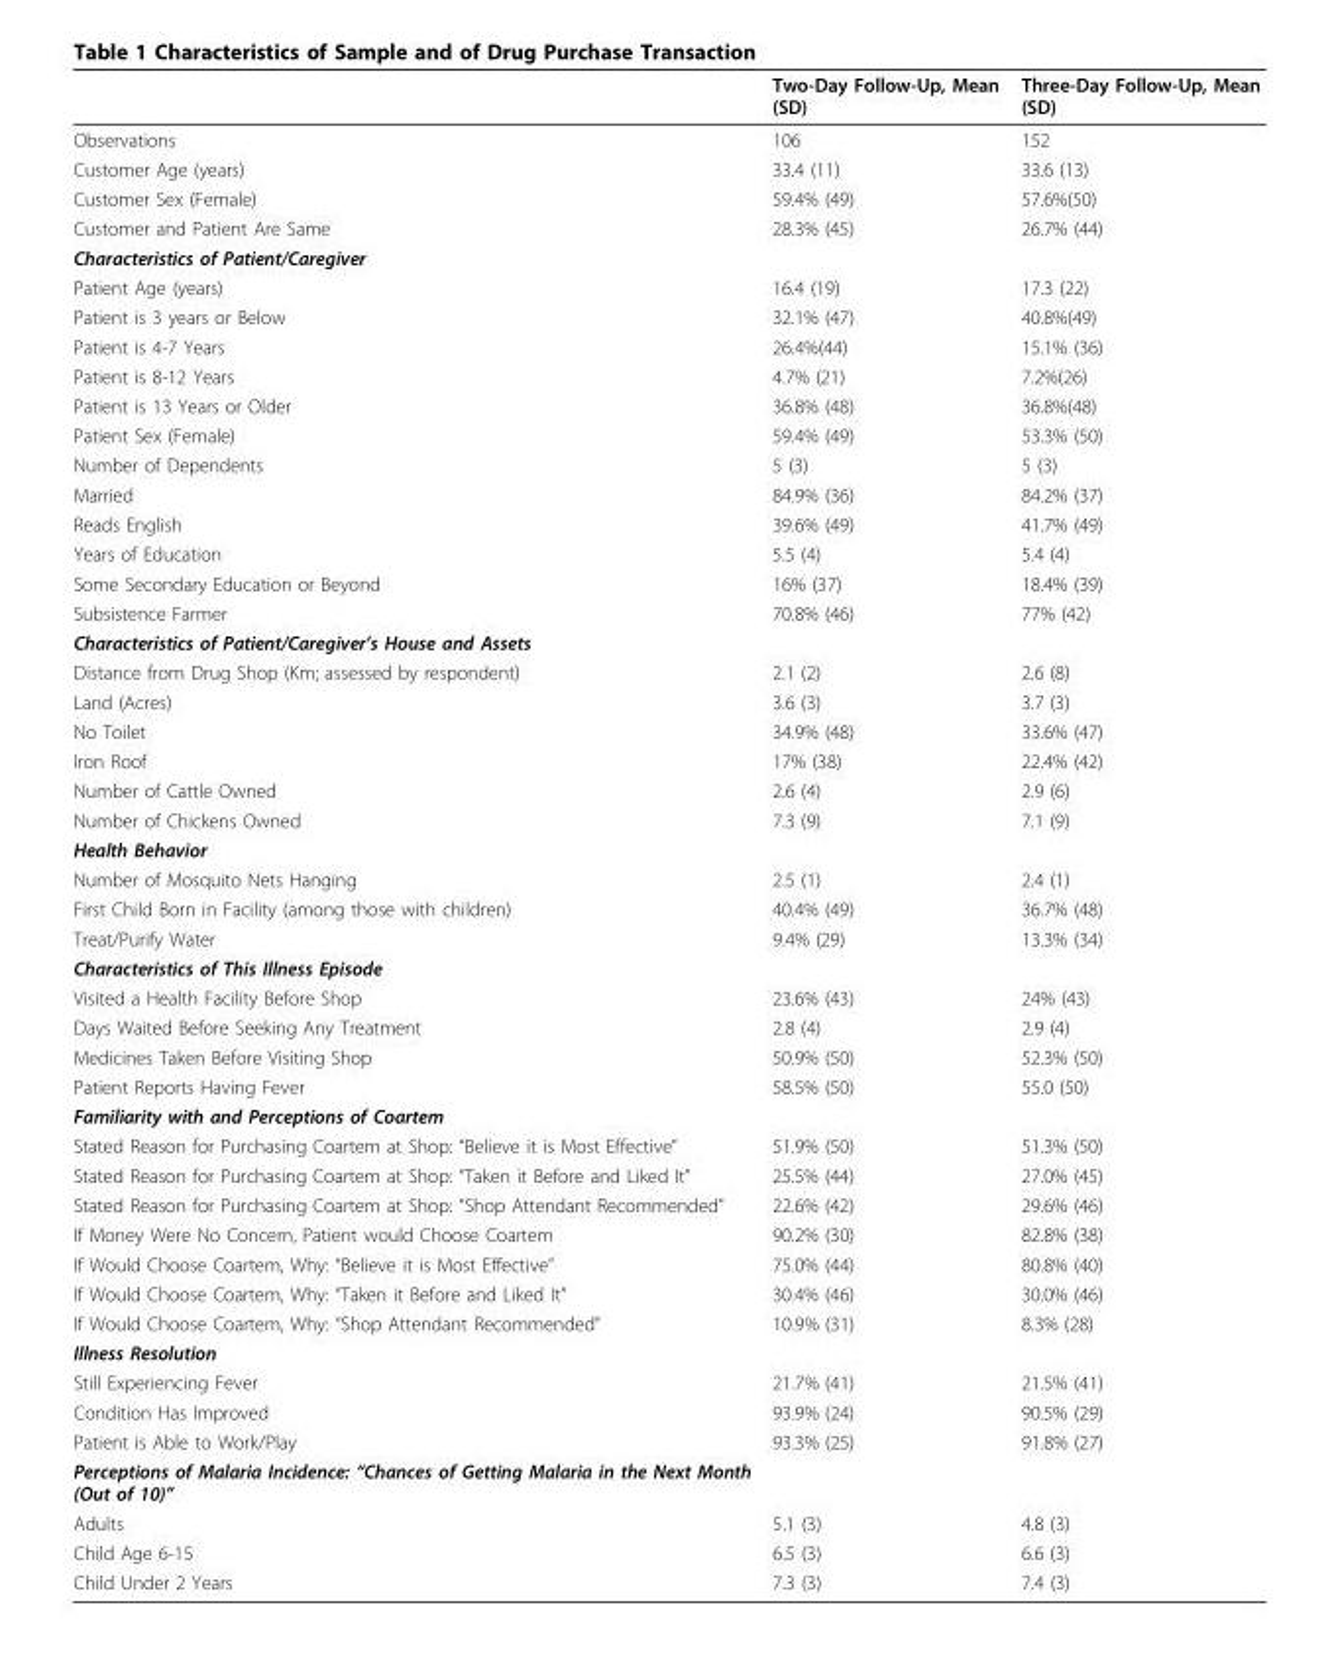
<table><thead><tr><td></td><td>Two-Day Follow-Up, Mean (SD)</td><td>Three-Day Follow-Up, Mean (SD)</td></tr></thead><tbody><tr><td>Observations</td><td>106</td><td>152</td></tr><tr><td>Customer Age (years)</td><td>33.4 (11)</td><td>33.6 (13)</td></tr><tr><td>Customer Sex (Female)</td><td>59.4% (49)</td><td>57.6%(50)</td></tr><tr><td>Customer and Patient Are Same</td><td>28.3% (45)</td><td>26.7% (44)</td></tr><tr><td colspan="3">Characteristics of Patient/Caregiver</td></tr><tr><td>Patient Age (years)</td><td>16.4 (19)</td><td>17.3 (22)</td></tr><tr><td>Patient is 3 years or Below</td><td>32.1% (47)</td><td>40.8%(49)</td></tr><tr><td>Patient is 4-7 Years</td><td>26.4%(44)</td><td>15.1% (36)</td></tr><tr><td>Patient is 8-12 Years</td><td>4.7% (21)</td><td>7.2%(26)</td></tr><tr><td>Patient is 13 Years or Older</td><td>36.8% (48)</td><td>36.8%(48)</td></tr><tr><td>Patient Sex (Female)</td><td>59.4% (49)</td><td>53.3% (50)</td></tr><tr><td>Number of Dependents</td><td>5 (3)</td><td>5 (3)</td></tr><tr><td>Married</td><td>84.9% (36)</td><td>84.2% (37)</td></tr><tr><td>Reads English</td><td>39.6% (49)</td><td>41.7% (49)</td></tr><tr><td>Years of Education</td><td>5.5 (4)</td><td>5.4 (4)</td></tr><tr><td>Some Secondary Education or Beyond</td><td>16% (37)</td><td>18.4% (39)</td></tr><tr><td>Subsistence Farmer</td><td>70.8% (46)</td><td>77% (42)</td></tr><tr><td colspan="3">Characteristics of Patient/Caregiver’s House and Assets</td></tr><tr><td>Distance from Drug Shop (Km; assessed by respondent)</td><td>2.1 (2)</td><td>2.6 (8)</td></tr><tr><td>Land (Acres)</td><td>3.6 (3)</td><td>3.7 (3)</td></tr><tr><td>No Toilet</td><td>34.9% (48)</td><td>33.6% (47)</td></tr><tr><td>Iron Roof</td><td>17% (38)</td><td>22.4% (42)</td></tr><tr><td>Number of Cattle Owned</td><td>2.6 (4)</td><td>2.9 (6)</td></tr><tr><td>Number of Chickens Owned</td><td>7.3 (9)</td><td>7.1 (9)</td></tr><tr><td colspan="3">Health Behavior</td></tr><tr><td>Number of Mosquito Nets Hanging</td><td>2.5 (1)</td><td>2.4 (1)</td></tr><tr><td>First Child Born in Facility (among those with children)</td><td>40.4% (49)</td><td>36.7% (48)</td></tr><tr><td>Treat/Purify Water</td><td>9.4% (29)</td><td>13.3% (34)</td></tr><tr><td colspan="3">Characteristics of This Illness Episode</td></tr><tr><td>Visited a Health Facility Before Shop</td><td>23.6% (43)</td><td>24% (43)</td></tr><tr><td>Days Waited Before Seeking Any Treatment</td><td>2.8 (4)</td><td>2.9 (4)</td></tr><tr><td>Medicines Taken Before Visiting Shop</td><td>50.9% (50)</td><td>52.3% (50)</td></tr><tr><td>Patient Reports Having Fever</td><td>58.5% (50)</td><td>55.0 (50)</td></tr><tr><td colspan="3">Familiarity with and Perceptions of Coartem</td></tr><tr><td>Stated Reason for Purchasing Coartem at Shop: “Believe it is Most Effective”</td><td>51.9% (50)</td><td>51.3% (50)</td></tr><tr><td>Stated Reason for Purchasing Coartem at Shop: “Taken it Before and Liked It”</td><td>25.5% (44)</td><td>27.0% (45)</td></tr><tr><td>Stated Reason for Purchasing Coartem at Shop: “Shop Attendant Recommended”</td><td>22.6% (42)</td><td>29.6% (46)</td></tr><tr><td>If Money Were No Concern, Patient would Choose Coartem</td><td>90.2% (30)</td><td>82.8% (38)</td></tr><tr><td>If Would Choose Coartem, Why: “Believe it is Most Effective”</td><td>75.0% (44)</td><td>80.8% (40)</td></tr><tr><td>If Would Choose Coartem, Why: “Taken it Before and Liked It”</td><td>30.4% (46)</td><td>30.0% (46)</td></tr><tr><td>If Would Choose Coartem, Why: “Shop Attendant Recommended”</td><td>10.9% (31)</td><td>8.3% (28)</td></tr><tr><td colspan="3">Illness Resolution</td></tr><tr><td>Still Experiencing Fever</td><td>21.7% (41)</td><td>21.5% (41)</td></tr><tr><td>Condition Has Improved</td><td>93.9% (24)</td><td>90.5% (29)</td></tr><tr><td>Patient is Able to Work/Play</td><td>93.3% (25)</td><td>91.8% (27)</td></tr><tr><td colspan="3">Perceptions of Malaria Incidence: “Chances of Getting Malaria in the Next Month (Out of 10)”</td></tr><tr><td>Adults</td><td>5.1 (3)</td><td>4.8 (3)</td></tr><tr><td>Child Age 6-15</td><td>6.5 (3)</td><td>6.6 (3)</td></tr><tr><td>Child Under 2 Years</td><td>7.3 (3)</td><td>7.4 (3)</td></tr></tbody></table>